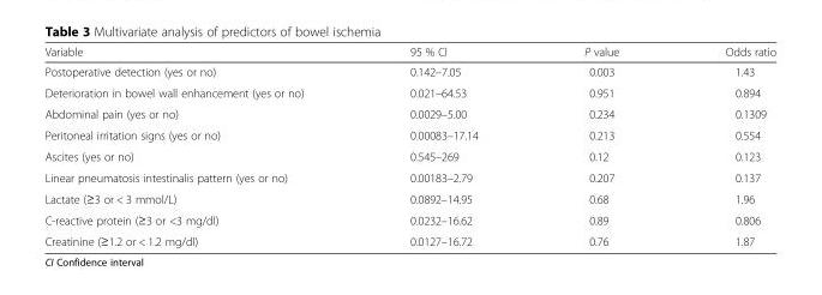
<table><thead><tr><td>Variable</td><td>95 % CI</td><td>P value</td><td>Odds ratio</td></tr></thead><tbody><tr><td>Postoperative detection (yes or no)</td><td>0.142–7.05</td><td>0.003</td><td>1.43</td></tr><tr><td>Deterioration in bowel wall enhancement (yes or no)</td><td>0.021–64.53</td><td>0.951</td><td>0.894</td></tr><tr><td>Abdominal pain (yes or no)</td><td>0.0029–5.00</td><td>0.234</td><td>0.1309</td></tr><tr><td>Peritoneal irritation signs (yes or no)</td><td>0.00083–17.14</td><td>0.213</td><td>0.554</td></tr><tr><td>Ascites (yes or no)</td><td>0.545–269</td><td>0.12</td><td>0.123</td></tr><tr><td>Linear pneumatosis intestinalis pattern (yes or no)</td><td>0.00183–2.79</td><td>0.207</td><td>0.137</td></tr><tr><td>Lactate (≥3 or &lt; 3 mmol/L)</td><td>0.0892–14.95</td><td>0.68</td><td>1.96</td></tr><tr><td>C-reactive protein (≥3 or &lt;3 mg/dl)</td><td>0.0232–16.62</td><td>0.89</td><td>0.806</td></tr><tr><td>Creatinine (≥1.2 or &lt; 1.2 mg/dl)</td><td>0.0127–16.72</td><td>0.76</td><td>1.87</td></tr></tbody></table>